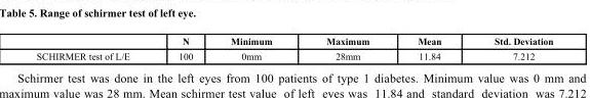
<table><thead><tr><td></td><td>N</td><td>Minimum</td><td>Maximum</td><td>Mean</td><td>Std. Deviation</td></tr></thead><tbody><tr><td>SCHIRMER test of L/E</td><td>100</td><td>0mm</td><td>28mm</td><td>11.84</td><td>7.212</td></tr></tbody></table>